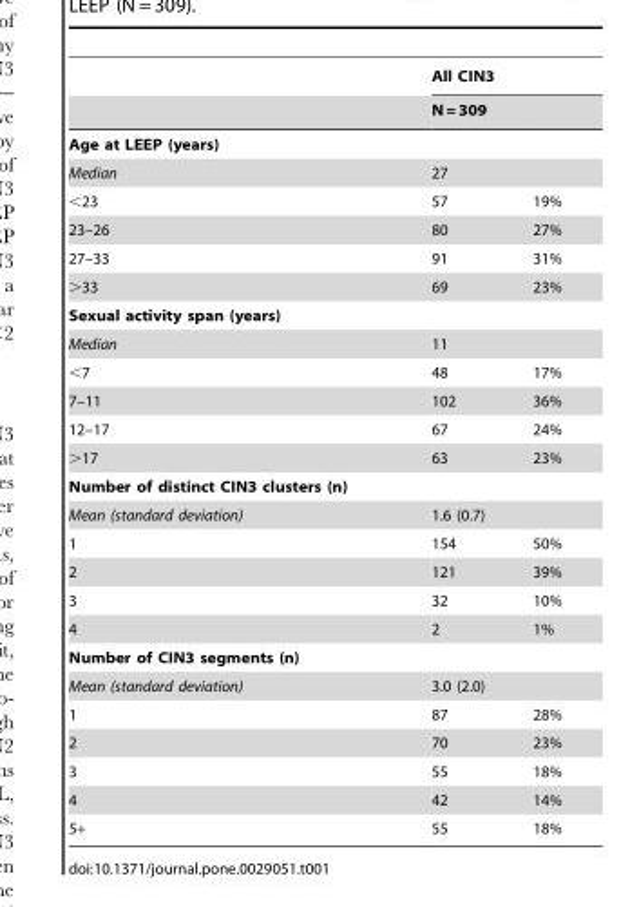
<table><thead><tr><td rowspan="3">Age at LEEP (years)</td><td rowspan="2" colspan="2">All CIN3 N = 309</td></tr><tr></tr><tr><td></td><td></td></tr></thead><tbody><tr><td>Median</td><td colspan="2">27</td></tr><tr><td>&lt;23</td><td>57</td><td>19%</td></tr><tr><td>23–26</td><td>80</td><td>27%</td></tr><tr><td>27–33</td><td>91</td><td>31%</td></tr><tr><td>&gt;33</td><td>69</td><td>23%</td></tr><tr><td colspan="3">Sexual activity span (years)</td></tr><tr><td>Median</td><td colspan="2">11</td></tr><tr><td>&lt;7</td><td>48</td><td>17%</td></tr><tr><td>7–11</td><td>102</td><td>36%</td></tr><tr><td>12–17</td><td>67</td><td>24%</td></tr><tr><td>&gt;17</td><td>63</td><td>23%</td></tr><tr><td colspan="3">Number of distinct CIN3 clusters (n)</td></tr><tr><td>Mean (standard deviation)</td><td colspan="2">1.6 (0.7)</td></tr><tr><td>1</td><td>154</td><td>50%</td></tr><tr><td>2</td><td>121</td><td>39%</td></tr><tr><td>3</td><td>32</td><td>10%</td></tr><tr><td>4</td><td>2</td><td>1%</td></tr><tr><td colspan="3">Number of CIN3 segments (n)</td></tr><tr><td>Mean (standard deviation)</td><td colspan="2">3.0 (2.0)</td></tr><tr><td>1</td><td>87</td><td>28%</td></tr><tr><td>2</td><td>70</td><td>23%</td></tr><tr><td>3</td><td>55</td><td>18%</td></tr><tr><td>4</td><td>42</td><td>14%</td></tr><tr><td>5+</td><td>55</td><td>18%</td></tr></tbody></table>